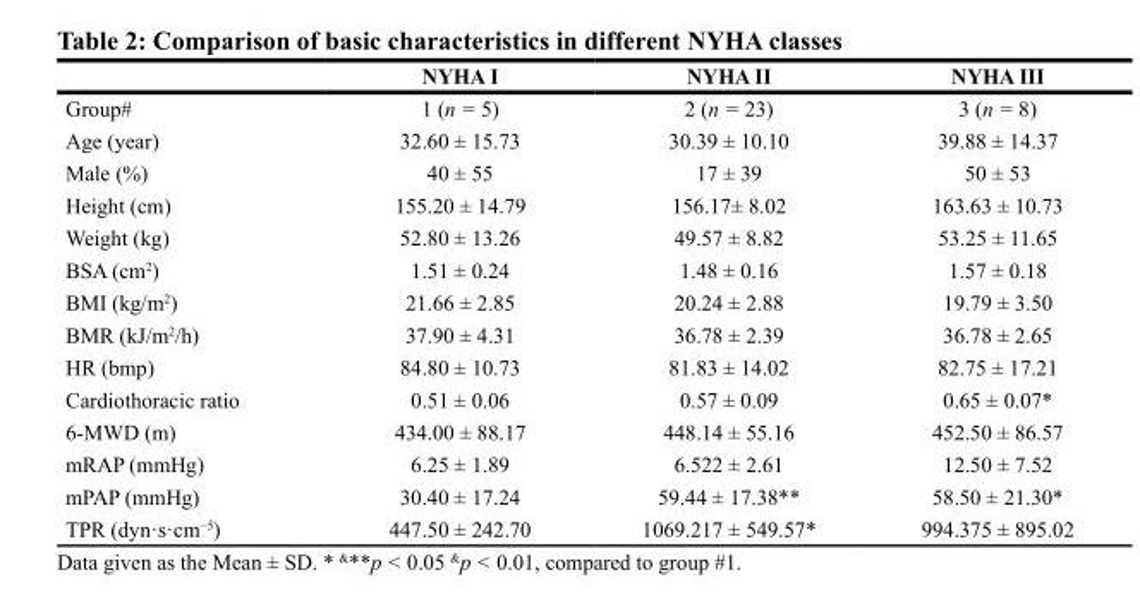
<table><thead><tr><td></td><td>NYHA I</td><td>NYHA II</td><td>NYHA III</td></tr></thead><tbody><tr><td>Group#</td><td>1 (n = 5)</td><td>2 (n = 23)</td><td>3 (n = 8)</td></tr><tr><td>Age (year)</td><td>32.60 ± 15.73</td><td>30.39 ± 10.10</td><td>39.88 ± 14.37</td></tr><tr><td>Male (%)</td><td>40 ± 55</td><td>17 ± 39</td><td>50 ± 53</td></tr><tr><td>Height (cm)</td><td>155.20 ± 14.79</td><td>156.17± 8.02</td><td>163.63 ± 10.73</td></tr><tr><td>Weight (kg)</td><td>52.80 ± 13.26</td><td>49.57 ± 8.82</td><td>53.25 ± 11.65</td></tr><tr><td>BSA (cm<sup>2</sup>)</td><td>1.51 ± 0.24</td><td>1.48 ± 0.16</td><td>1.57 ± 0.18</td></tr><tr><td>BMI (kg/m<sup>2</sup>)</td><td>21.66 ± 2.85</td><td>20.24 ± 2.88</td><td>19.79 ± 3.50</td></tr><tr><td>BMR (kJ/m<sup>2</sup>/h)</td><td>37.90 ± 4.31</td><td>36.78 ± 2.39</td><td>36.78 ± 2.65</td></tr><tr><td>HR (bmp)</td><td>84.80 ± 10.73</td><td>81.83 ± 14.02</td><td>82.75 ± 17.21</td></tr><tr><td>Cardiothoracic ratio</td><td>0.51 ± 0.06</td><td>0.57 ± 0.09</td><td>0.65 ± 0.07*</td></tr><tr><td>6-MWD (m)</td><td>434.00 ± 88.17</td><td>448.14 ± 55.16</td><td>452.50 ± 86.57</td></tr><tr><td>mRAP (mmHg)</td><td>6.25 ± 1.89</td><td>6.522 ± 2.61</td><td>12.50 ± 7.52</td></tr><tr><td>mPAP (mmHg)</td><td>30.40 ± 17.24</td><td>59.44 ± 17.38**</td><td>58.50 ± 21.30*</td></tr><tr><td>TPR (dyn·s·cm<sup>−5</sup>)</td><td>447.50 ± 242.70</td><td>1069.217 ± 549.57*</td><td>994.375 ± 895.02</td></tr></tbody></table>